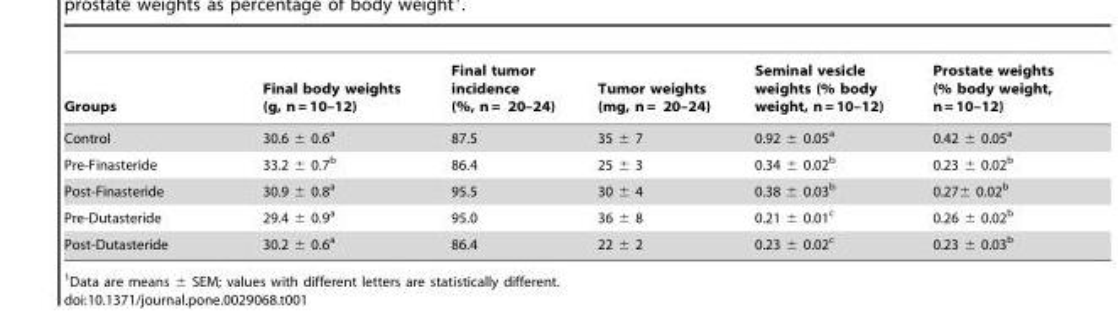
<table><thead><tr><td>Groups</td><td>Final body weights (g, n = 10–12)</td><td>Final tumor incidence (%, n = 20–24)</td><td>Tumor weights (mg, n = 20–24)</td><td>Seminal vesicle weights (% body weight, n = 10–12)</td><td>Prostate weights (% body weight, n = 10–12)</td></tr></thead><tbody><tr><td>Control</td><td>30.6 ± 0.6<sup>a</sup></td><td>87.5</td><td>35 ± 7</td><td>0.92 ± 0.05<sup>a</sup></td><td>0.42 ± 0.05<sup>a</sup></td></tr><tr><td>Pre-Finasteride</td><td>33.2 ± 0.7<sup>b</sup></td><td>86.4</td><td>25 ± 3</td><td>0.34 ± 0.02<sup>b</sup></td><td>0.23 ± 0.02<sup>b</sup></td></tr><tr><td>Post-Finasteride</td><td>30.9 ± 0.8<sup>a</sup></td><td>95.5</td><td>30 ± 4</td><td>0.38 ± 0.03<sup>b</sup></td><td>0.27± 0.02<sup>b</sup></td></tr><tr><td>Pre-Dutasteride</td><td>29.4 ± 0.9<sup>a</sup></td><td>95.0</td><td>36 ± 8</td><td>0.21 ± 0.01<sup>c</sup></td><td>0.26 ± 0.02<sup>b</sup></td></tr><tr><td>Post-Dutasteride</td><td>30.2 ± 0.6<sup>a</sup></td><td>86.4</td><td>22 ± 2</td><td>0.23 ± 0.02<sup>c</sup></td><td>0.23 ± 0.03<sup>b</sup></td></tr></tbody></table>